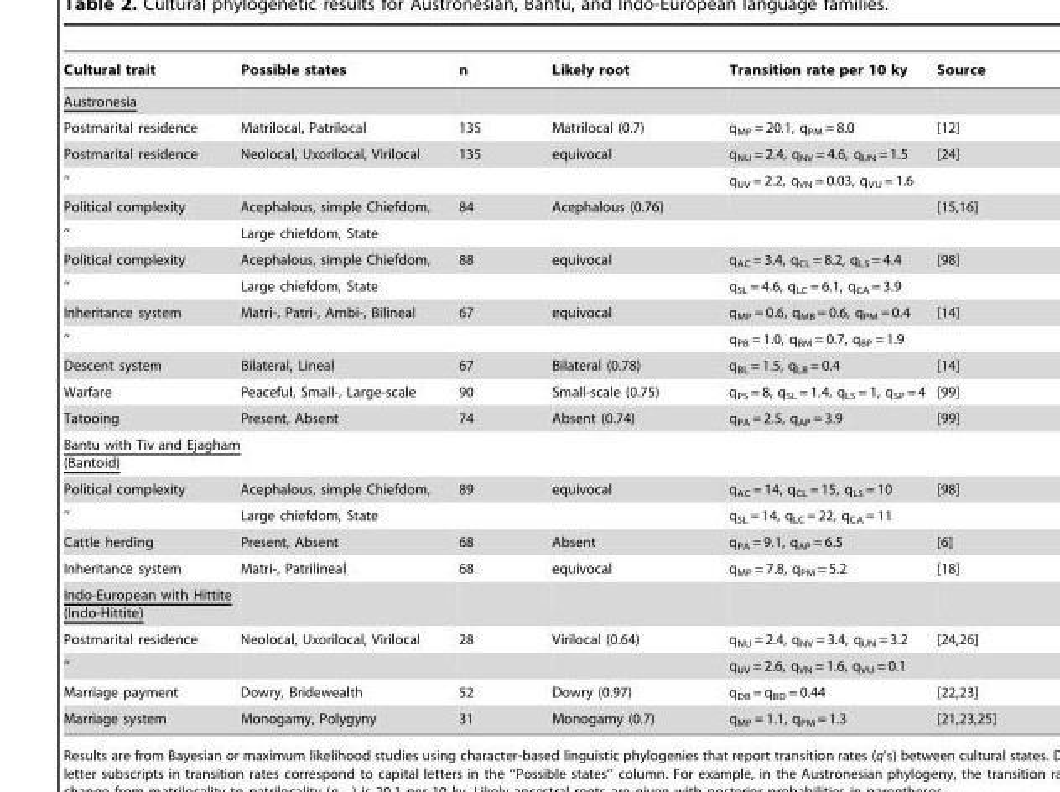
<table><thead><tr><td>Cultural trait</td><td>Possible states</td><td>n</td><td>Likely root</td><td>Transition rate per 10 ky</td><td>Source</td></tr></thead><tbody><tr><td colspan="6">Austronesia</td></tr><tr><td>Postmarital residence</td><td>Matrilocal, Patrilocal</td><td>135</td><td>Matrilocal (0.7)</td><td>q<sub>MP</sub> = 20.1, q<sub>PM</sub> = 8.0</td><td>[12]</td></tr><tr><td>Postmarital residence</td><td>Neolocal, Uxorilocal, Virilocal</td><td>135</td><td>equivocal</td><td>q<sub>NU</sub> = 2.4, q<sub>NV</sub> = 4.6, q<sub>UN</sub> = 1.5</td><td>[24]</td></tr><tr><td>‘‘</td><td></td><td></td><td></td><td>q<sub>UV</sub> = 2.2, q<sub>VN</sub> = 0.03, q<sub>VU</sub> = 1.6</td><td></td></tr><tr><td>Political complexity</td><td>Acephalous, simple Chiefdom,</td><td>84</td><td>Acephalous (0.76)</td><td></td><td>[15,16]</td></tr><tr><td>‘‘</td><td>Large chiefdom, State</td><td></td><td></td><td></td><td></td></tr><tr><td>Political complexity</td><td>Acephalous, simple Chiefdom,</td><td>88</td><td>equivocal</td><td>q<sub>AC</sub> = 3.4, q<sub>CL</sub> = 8.2, q<sub>LS</sub> = 4.4</td><td>[98]</td></tr><tr><td>‘‘</td><td>Large chiefdom, State</td><td></td><td></td><td>q<sub>SL</sub> = 4.6, q<sub>LC</sub> = 6.1, q<sub>CA</sub> = 3.9</td><td></td></tr><tr><td>Inheritance system</td><td>Matri-, Patri-, Ambi-, Bilineal</td><td>67</td><td>equivocal</td><td>q<sub>MP</sub> = 0.6, q<sub>MB</sub> = 0.6, q<sub>PM</sub> = 0.4</td><td>[14]</td></tr><tr><td>‘‘</td><td></td><td></td><td></td><td>q<sub>PB</sub> = 1.0, q<sub>BM</sub> = 0.7, q<sub>BP</sub> = 1.9</td><td></td></tr><tr><td>Descent system</td><td>Bilateral, Lineal</td><td>67</td><td>Bilateral (0.78)</td><td>q<sub>BL</sub> = 1.5, q<sub>LB</sub> = 0.4</td><td>[14]</td></tr><tr><td>Warfare</td><td>Peaceful, Small-, Large-scale</td><td>90</td><td>Small-scale (0.75)</td><td>q<sub>PS</sub> = 8, q<sub>SL</sub> = 1.4, q<sub>LS</sub> = 1, q<sub>SP</sub> = 4</td><td>[99]</td></tr><tr><td>Tatooing</td><td>Present, Absent</td><td>74</td><td>Absent (0.74)</td><td>q<sub>PA</sub> = 2.5, q<sub>AP</sub> = 3.9</td><td>[99]</td></tr><tr><td colspan="6">Bantu with Tiv and Ejagham (Bantoid)</td></tr><tr><td>Political complexity</td><td>Acephalous, simple Chiefdom,</td><td>89</td><td>equivocal</td><td>q<sub>AC</sub> = 14, q<sub>CL</sub> = 15, q<sub>LS</sub> = 10</td><td>[98]</td></tr><tr><td>‘‘</td><td>Large chiefdom, State</td><td></td><td></td><td>q<sub>SL</sub> = 14, q<sub>LC</sub> = 22, q<sub>CA</sub> = 11</td><td></td></tr><tr><td>Cattle herding</td><td>Present, Absent</td><td>68</td><td>Absent</td><td>q<sub>PA</sub> = 9.1, q<sub>AP</sub> = 6.5</td><td>[6]</td></tr><tr><td>Inheritance system</td><td>Matri-, Patrilineal</td><td>68</td><td>equivocal</td><td>q<sub>MP</sub> = 7.8, q<sub>PM</sub> = 5.2</td><td>[18]</td></tr><tr><td colspan="6">Indo-European with Hittite (Indo-Hittite)</td></tr><tr><td>Postmarital residence</td><td>Neolocal, Uxorilocal, Virilocal</td><td>28</td><td>Virilocal (0.64)</td><td>q<sub>NU</sub> = 2.4, q<sub>NV</sub> = 3.4, q<sub>UN</sub> = 3.2</td><td>[24,26]</td></tr><tr><td>‘‘</td><td></td><td></td><td></td><td>q<sub>UV</sub> = 2.6, q<sub>VN</sub> = 1.6, q<sub>VU</sub> = 0.1</td><td></td></tr><tr><td>Marriage payment</td><td>Dowry, Bridewealth</td><td>52</td><td>Dowry (0.97)</td><td>q<sub>DB</sub> = q<sub>BD</sub> = 0.44</td><td>[22,23]</td></tr><tr><td>Marriage system</td><td>Monogamy, Polygyny</td><td>31</td><td>Monogamy (0.7)</td><td>q<sub>MP</sub> = 1.1, q<sub>PM</sub> = 1.3</td><td>[21,23,25]</td></tr></tbody></table>